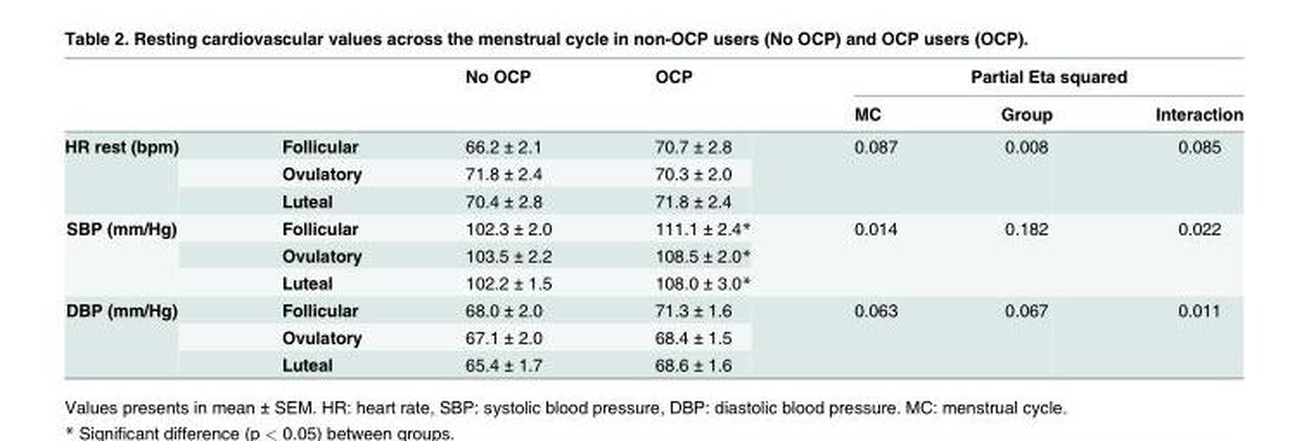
<table><thead><tr><td rowspan="2"></td><td rowspan="2"></td><td rowspan="2">No OCP</td><td rowspan="2">OCP</td><td colspan="3">Partial Eta squared</td></tr><tr><td>MC</td><td>Group</td><td>Interaction</td></tr></thead><tbody><tr><td rowspan="3">HR rest (bpm)</td><td>Follicular</td><td>66.2 ± 2.1</td><td>70.7 ± 2.8</td><td rowspan="3">0.087</td><td rowspan="3">0.008</td><td rowspan="3">0.085</td></tr><tr><td>Ovulatory</td><td>71.8 ± 2.4</td><td>70.3 ± 2.0</td></tr><tr><td>Luteal</td><td>70.4 ± 2.8</td><td>71.8 ± 2.4</td></tr><tr><td rowspan="3">SBP (mm/Hg)</td><td>Follicular</td><td>102.3 ± 2.0</td><td>111.1 ± 2.4*</td><td rowspan="3">0.014</td><td rowspan="3">0.182</td><td rowspan="3">0.022</td></tr><tr><td>Ovulatory</td><td>103.5 ± 2.2</td><td>108.5 ± 2.0*</td></tr><tr><td>Luteal</td><td>102.2 ± 1.5</td><td>108.0 ± 3.0*</td></tr><tr><td rowspan="3">DBP (mm/Hg)</td><td>Follicular</td><td>68.0 ± 2.0</td><td>71.3 ± 1.6</td><td rowspan="3">0.063</td><td rowspan="3">0.067</td><td rowspan="3">0.011</td></tr><tr><td>Ovulatory</td><td>67.1 ± 2.0</td><td>68.4 ± 1.5</td></tr><tr><td>Luteal</td><td>65.4 ± 1.7</td><td>68.6 ± 1.6</td></tr></tbody></table>